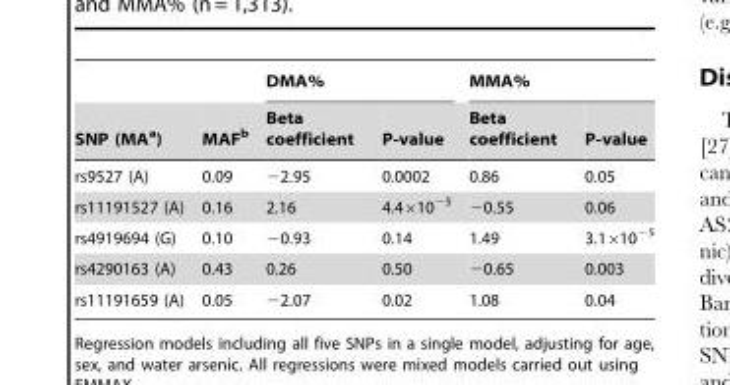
<table><thead><tr><td rowspan="2">SNP (MA<sup>a</sup>)</td><td rowspan="2">MAF<sup>b</sup></td><td colspan="2">DMA%</td><td colspan="2">MMA%</td></tr><tr><td>Beta coefficient</td><td>P-value</td><td>Beta coefficient</td><td>P-value</td></tr></thead><tbody><tr><td>rs9527 (A)</td><td>0.09</td><td>−2.95</td><td>0.0002</td><td>0.86</td><td>0.05</td></tr><tr><td>rs11191527 (A)</td><td>0.16</td><td>2.16</td><td>4.4×10<sup>−5</sup></td><td>−0.55</td><td>0.06</td></tr><tr><td>rs4919694 (G)</td><td>0.10</td><td>−0.93</td><td>0.14</td><td>1.49</td><td>3.1×10<sup>−5</sup></td></tr><tr><td>rs4290163 (A)</td><td>0.43</td><td>0.26</td><td>0.50</td><td>−0.65</td><td>0.003</td></tr><tr><td>rs11191659 (A)</td><td>0.05</td><td>−2.07</td><td>0.02</td><td>1.08</td><td>0.04</td></tr></tbody></table>